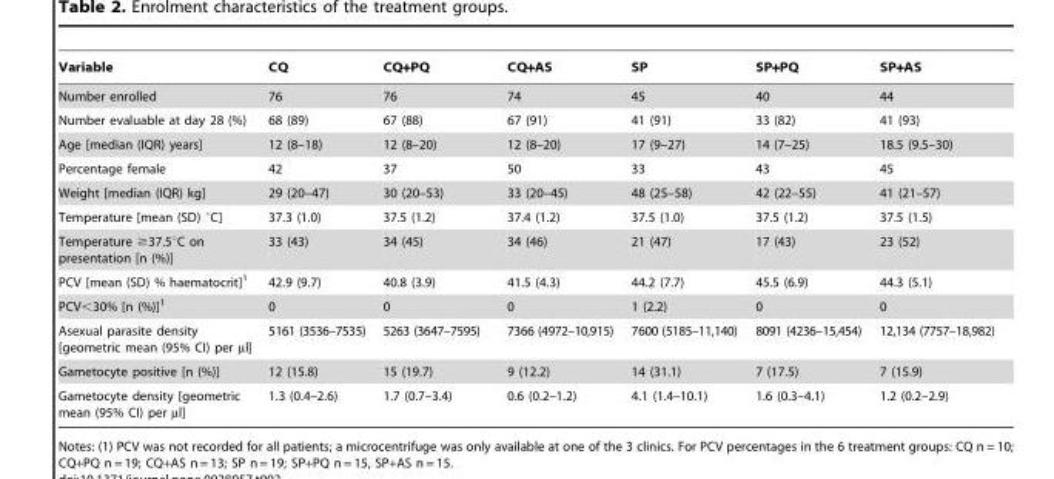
<table><thead><tr><td>Variable</td><td>CQ</td><td>CQ+PQ</td><td>CQ+AS</td><td>SP</td><td>SP+PQ</td><td>SP+AS</td></tr></thead><tbody><tr><td>Number enrolled</td><td>76</td><td>76</td><td>74</td><td>45</td><td>40</td><td>44</td></tr><tr><td>Number evaluable at day 28 (%)</td><td>68 (89)</td><td>67 (88)</td><td>67 (91)</td><td>41 (91)</td><td>33 (82)</td><td>41 (93)</td></tr><tr><td>Age [median (IQR) years]</td><td>12 (8–18)</td><td>12 (8–20)</td><td>12 (8–20)</td><td>17 (9–27)</td><td>14 (7–25)</td><td>18.5 (9.5–30)</td></tr><tr><td>Percentage female</td><td>42</td><td>37</td><td>50</td><td>33</td><td>43</td><td>45</td></tr><tr><td>Weight [median (IQR) kg]</td><td>29 (20–47)</td><td>30 (20–53)</td><td>33 (20–45)</td><td>48 (25–58)</td><td>42 (22–55)</td><td>41 (21–57)</td></tr><tr><td>Temperature [mean (SD) °C]</td><td>37.3 (1.0)</td><td>37.5 (1.2)</td><td>37.4 (1.2)</td><td>37.5 (1.0)</td><td>37.5 (1.2)</td><td>37.5 (1.5)</td></tr><tr><td>Temperature ≥37.5°C on presentation [n (%)]</td><td>33 (43)</td><td>34 (45)</td><td>34 (46)</td><td>21 (47)</td><td>17 (43)</td><td>23 (52)</td></tr><tr><td>PCV [mean (SD) % haematocrit]<sup>1</sup></td><td>42.9 (9.7)</td><td>40.8 (3.9)</td><td>41.5 (4.3)</td><td>44.2 (7.7)</td><td>45.5 (6.9)</td><td>44.3 (5.1)</td></tr><tr><td>PCV&lt;30% [n (%)]<sup>1</sup></td><td>0</td><td>0</td><td>0</td><td>1 (2.2)</td><td>0</td><td>0</td></tr><tr><td>Asexual parasite density [geometric mean (95% CI) per µl]</td><td>5161 (3536–7535)</td><td>5263 (3647–7595)</td><td>7366 (4972–10,915)</td><td>7600 (5185–11,140)</td><td>8091 (4236–15,454)</td><td>12,134 (7757–18,982)</td></tr><tr><td>Gametocyte positive [n (%)]</td><td>12 (15.8)</td><td>15 (19.7)</td><td>9 (12.2)</td><td>14 (31.1)</td><td>7 (17.5)</td><td>7 (15.9)</td></tr><tr><td>Gametocyte density [geometric mean (95% CI) per µl]</td><td>1.3 (0.4–2.6)</td><td>1.7 (0.7–3.4)</td><td>0.6 (0.2–1.2)</td><td>4.1 (1.4–10.1)</td><td>1.6 (0.3–4.1)</td><td>1.2 (0.2–2.9)</td></tr></tbody></table>